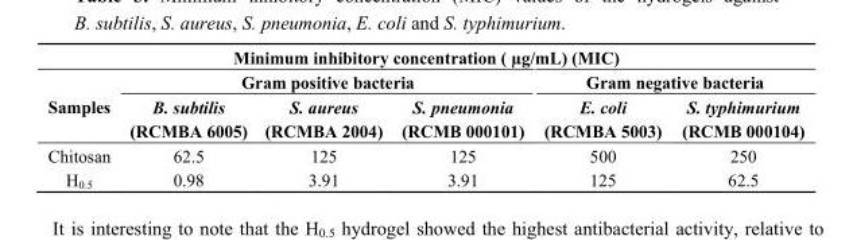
<table><thead><tr><td colspan="6">Minimum inhibitory concentration ( µg/mL) (MIC)</td></tr><tr><td rowspan="2">Samples</td><td colspan="3">Gram positive bacteria</td><td colspan="2">Gram negative bacteria</td></tr><tr><td>B. subtilis (RCMBA 6005)</td><td>S. aureus (RCMBA 2004)</td><td>S. pneumonia (RCMB 000101)</td><td>E. coli (RCMBA 5003)</td><td>S. typhimurium (RCMB 000104)</td></tr></thead><tbody><tr><td>Chitosan</td><td>62.5</td><td>125</td><td>125</td><td>500</td><td>250</td></tr><tr><td>H<sub>0.5</sub></td><td>0.98</td><td>3.91</td><td>3.91</td><td>125</td><td>62.5</td></tr></tbody></table>